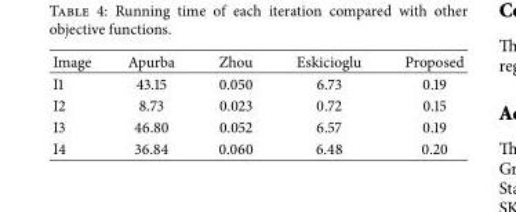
<table><thead><tr><td>Image</td><td>Apurba</td><td>Zhou</td><td>Eskicioglu</td><td>Proposed</td></tr></thead><tbody><tr><td>I1</td><td>43.15</td><td>0.050</td><td>6.73</td><td>0.19</td></tr><tr><td>I2</td><td>8.73</td><td>0.023</td><td>0.72</td><td>0.15</td></tr><tr><td>I3</td><td>46.80</td><td>0.052</td><td>6.57</td><td>0.19</td></tr><tr><td>I4</td><td>36.84</td><td>0.060</td><td>6.48</td><td>0.20</td></tr></tbody></table>